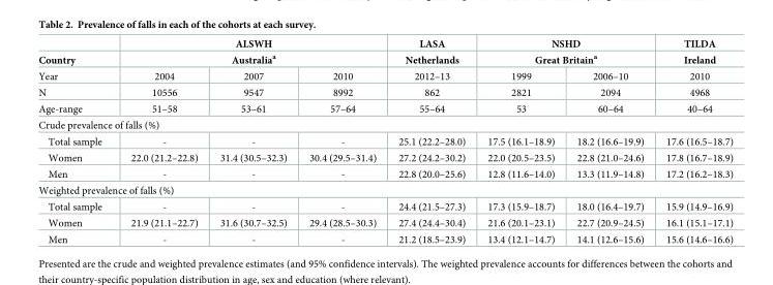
<table><thead><tr><td rowspan="3">Country Year</td><td rowspan="2" colspan="3">ALSWH Australia<sup>a</sup></td><td rowspan="3">LASA Netherlands 2012–13</td><td rowspan="2" colspan="2">NSHD Great Britain<sup>a</sup></td><td rowspan="3">TILDA Ireland 2010</td></tr><tr></tr><tr><td>2004</td><td>2007</td><td>2010</td><td>1999</td><td>2006–10</td></tr></thead><tbody><tr><td>N</td><td>10556</td><td>9547</td><td>8992</td><td>862</td><td>2821</td><td>2094</td><td>4968</td></tr><tr><td>Age-range</td><td>51–58</td><td>53–61</td><td>57–64</td><td>55–64</td><td>53</td><td>60–64</td><td>40–64</td></tr><tr><td colspan="8">Crude prevalence of falls (%)</td></tr><tr><td>Total sample</td><td>-</td><td>-</td><td>-</td><td>25.1 (22.2–28.0)</td><td>17.5 (16.1–18.9)</td><td>18.2 (16.6–19.9)</td><td>17.6 (16.5–18.7)</td></tr><tr><td>Women</td><td>22.0 (21.2–22.8)</td><td>31.4 (30.5–32.3)</td><td>30.4 (29.5–31.4)</td><td>27.2 (24.2–30.2)</td><td>22.0 (20.5–23.5)</td><td>22.8 (21.0–24.6)</td><td>17.8 (16.7–18.9)</td></tr><tr><td>Men</td><td>-</td><td>-</td><td>-</td><td>22.8 (20.0–25.6)</td><td>12.8 (11.6–14.0)</td><td>13.3 (11.9–14.8)</td><td>17.2 (16.2–18.3)</td></tr><tr><td colspan="8">Weighted prevalence of falls (%)</td></tr><tr><td>Total sample</td><td>-</td><td>-</td><td>-</td><td>24.4 (21.5–27.3)</td><td>17.3 (15.9–18.7)</td><td>18.0 (16.4–19.7)</td><td>15.9 (14.9–16.9)</td></tr><tr><td>Women</td><td>21.9 (21.1–22.7)</td><td>31.6 (30.7–32.5)</td><td>29.4 (28.5–30.3)</td><td>27.4 (24.4–30.4)</td><td>21.6 (20.1–23.1)</td><td>22.7 (20.9–24.5)</td><td>16.1 (15.1–17.1)</td></tr><tr><td>Men</td><td>-</td><td>-</td><td>-</td><td>21.2 (18.5–23.9)</td><td>13.4 (12.1–14.7)</td><td>14.1 (12.6–15.6)</td><td>15.6 (14.6–16.6)</td></tr></tbody></table>